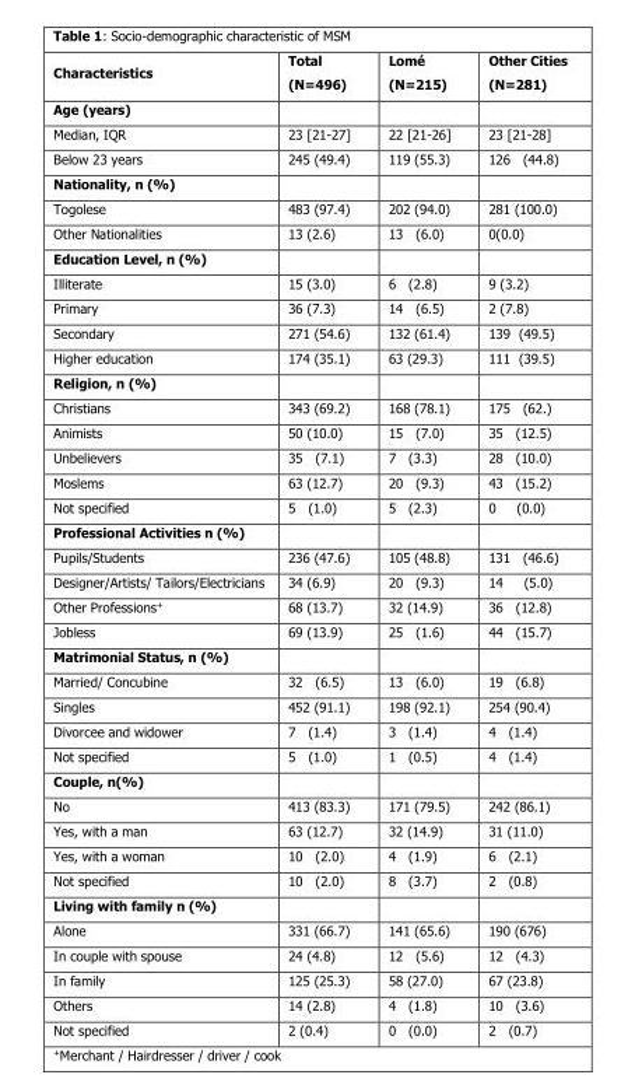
<table><thead><tr><td>Characteristics</td><td>Total (N=496)</td><td>Lomé (N=215)</td><td>Other Cities (N=281)</td></tr></thead><tbody><tr><td colspan="4">Age (years)</td></tr><tr><td>Median, IQR</td><td>23 [21-27]</td><td>22 [21-26]</td><td>23 [21-28]</td></tr><tr><td>Below 23 years</td><td>245 (49.4)</td><td>119 (55.3)</td><td>126 (44.8)</td></tr><tr><td colspan="4">Nationality, n (%)</td></tr><tr><td>Togolese</td><td>483 (97.4)</td><td>202 (94.0)</td><td>281 (100.0)</td></tr><tr><td>Other Nationalities</td><td>13 (2.6)</td><td>13 (6.0)</td><td>0(0.0)</td></tr><tr><td colspan="4">Education Level, n (%)</td></tr><tr><td>Illiterate</td><td>15 (3.0)</td><td>6 (2.8)</td><td>9 (3.2)</td></tr><tr><td>Primary</td><td>36 (7.3)</td><td>14 (6.5)</td><td>2 (7.8)</td></tr><tr><td>Secondary</td><td>271 (54.6)</td><td>132 (61.4)</td><td>139 (49.5)</td></tr><tr><td>Higher education</td><td>174 (35.1)</td><td>63 (29.3)</td><td>111 (39.5)</td></tr><tr><td colspan="4">Religion, n (%)</td></tr><tr><td>Christians</td><td>343 (69.2)</td><td>168 (78.1)</td><td>175 (62.)</td></tr><tr><td>Animists</td><td>50 (10.0)</td><td>15 (7.0)</td><td>35 (12.5)</td></tr><tr><td>Unbelievers</td><td>35 (7.1)</td><td>7 (3.3)</td><td>28 (10.0)</td></tr><tr><td>Moslems</td><td>63 (12.7)</td><td>20 (9.3)</td><td>43 (15.2)</td></tr><tr><td>Not specified</td><td>5 (1.0)</td><td>5 (2.3)</td><td>0 (0.0)</td></tr><tr><td colspan="4">Professional Activities n (%)</td></tr><tr><td>Pupils/Students</td><td>236 (47.6)</td><td>105 (48.8)</td><td>131 (46.6)</td></tr><tr><td>Designer/Artists/ Tailors/Electricians</td><td>34 (6.9)</td><td>20 (9.3)</td><td>14 (5.0)</td></tr><tr><td>Other Professions<sup>+</sup></td><td>68 (13.7)</td><td>32 (14.9)</td><td>36 (12.8)</td></tr><tr><td>Jobless</td><td>69 (13.9)</td><td>25 (1.6)</td><td>44 (15.7)</td></tr><tr><td colspan="4">Matrimonial Status, n (%)</td></tr><tr><td>Married/ Concubine</td><td>32 (6.5)</td><td>13 (6.0)</td><td>19 (6.8)</td></tr><tr><td>Singles</td><td>452 (91.1)</td><td>198 (92.1)</td><td>254 (90.4)</td></tr><tr><td>Divorcee and widower</td><td>7 (1.4)</td><td>3 (1.4)</td><td>4 (1.4)</td></tr><tr><td>Not specified</td><td>5 (1.0)</td><td>1 (0.5)</td><td>4 (1.4)</td></tr><tr><td colspan="4">Couple, n(%)</td></tr><tr><td>No</td><td>413 (83.3)</td><td>171 (79.5)</td><td>242 (86.1)</td></tr><tr><td>Yes, with a man</td><td>63 (12.7)</td><td>32 (14.9)</td><td>31 (11.0)</td></tr><tr><td>Yes, with a woman</td><td>10 (2.0)</td><td>4 (1.9)</td><td>6 (2.1)</td></tr><tr><td>Not specified</td><td>10 (2.0)</td><td>8 (3.7)</td><td>2 (0.8)</td></tr><tr><td colspan="4">Living with family n (%)</td></tr><tr><td>Alone</td><td>331 (66.7)</td><td>141 (65.6)</td><td>190 (676)</td></tr><tr><td>In couple with spouse</td><td>24 (4.8)</td><td>12 (5.6)</td><td>12 (4.3)</td></tr><tr><td>In family</td><td>125 (25.3)</td><td>58 (27.0)</td><td>67 (23.8)</td></tr><tr><td>Others</td><td>14 (2.8)</td><td>4 (1.8)</td><td>10 (3.6)</td></tr><tr><td>Not specified</td><td>2 (0.4)</td><td>0 (0.0)</td><td>2 (0.7)</td></tr></tbody></table>